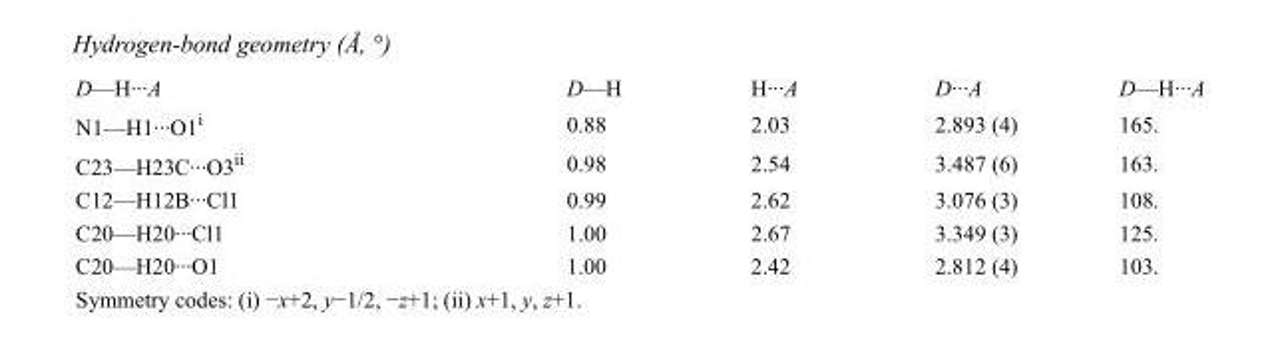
<table><tbody><tr><td>D—H···A</td><td>D—H</td><td>H···A</td><td>D···A</td><td>D—H···A</td></tr><tr><td>N1—H1···O1<sup>i</sup></td><td>0.88</td><td>2.03</td><td>2.893 (4)</td><td>165.</td></tr><tr><td>C23—H23C···O3<sup>ii</sup></td><td>0.98</td><td>2.54</td><td>3.487 (6)</td><td>163.</td></tr><tr><td>C12—H12B···Cl1</td><td>0.99</td><td>2.62</td><td>3.076 (3)</td><td>108.</td></tr><tr><td>C20—H20···Cl1</td><td>1.00</td><td>2.67</td><td>3.349 (3)</td><td>125.</td></tr><tr><td>C20—H20···O1</td><td>1.00</td><td>2.42</td><td>2.812 (4)</td><td>103.</td></tr></tbody></table>